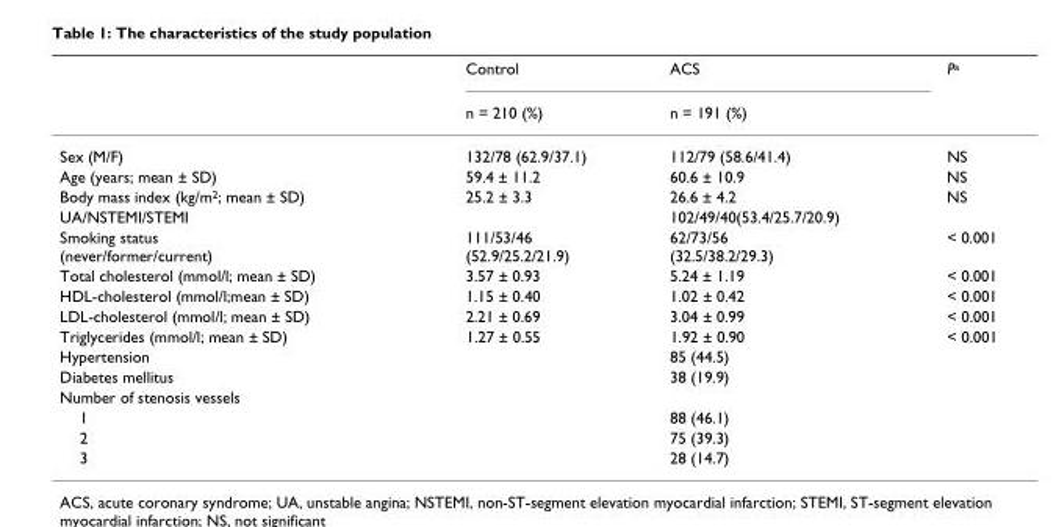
<table><thead><tr><td rowspan="2"></td><td rowspan="2">Control n = 210 (%)</td><td rowspan="2">ACS n = 191 (%)</td><td rowspan="2">P<sup>a</sup></td></tr><tr></tr></thead><tbody><tr><td>Sex (M/F)</td><td>132/78 (62.9/37.1)</td><td>112/79 (58.6/41.4)</td><td>NS</td></tr><tr><td>Age (years; mean ± SD)</td><td>59.4 ± 11.2</td><td>60.6 ± 10.9</td><td>NS</td></tr><tr><td>Body mass index (kg/m<sup>2</sup>; mean ± SD)</td><td>25.2 ± 3.3</td><td>26.6 ± 4.2</td><td>NS</td></tr><tr><td>UA/NSTEMI/STEMI</td><td></td><td>102/49/40(53.4/25.7/20.9)</td><td></td></tr><tr><td>Smoking status (never/former/current)</td><td>111/53/46 (52.9/25.2/21.9)</td><td>62/73/56 (32.5/38.2/29.3)</td><td>&lt; 0.001</td></tr><tr><td>Total cholesterol (mmol/l; mean ± SD)</td><td>3.57 ± 0.93</td><td>5.24 ± 1.19</td><td>&lt; 0.001</td></tr><tr><td>HDL-cholesterol (mmol/l;mean ± SD)</td><td>1.15 ± 0.40</td><td>1.02 ± 0.42</td><td>&lt; 0.001</td></tr><tr><td>LDL-cholesterol (mmol/l; mean ± SD)</td><td>2.21 ± 0.69</td><td>3.04 ± 0.99</td><td>&lt; 0.001</td></tr><tr><td>Triglycerides (mmol/l; mean ± SD)</td><td>1.27 ± 0.55</td><td>1.92 ± 0.90</td><td>&lt; 0.001</td></tr><tr><td>Hypertension</td><td></td><td>85 (44.5)</td><td></td></tr><tr><td>Diabetes mellitus</td><td></td><td>38 (19.9)</td><td></td></tr><tr><td colspan="4">Number of stenosis vessels</td></tr><tr><td>1</td><td></td><td>88 (46.1)</td><td></td></tr><tr><td>2</td><td></td><td>75 (39.3)</td><td></td></tr><tr><td>3</td><td></td><td>28 (14.7)</td><td></td></tr></tbody></table>